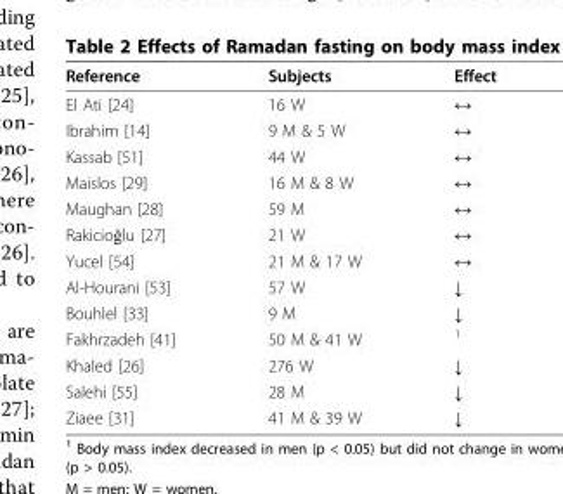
<table><thead><tr><td>Reference</td><td>Subjects</td><td>Effect</td></tr></thead><tbody><tr><td>El Ati [24]</td><td>16 W</td><td>↔</td></tr><tr><td>Ibrahim [14]</td><td>9 M &amp; 5 W</td><td>↔</td></tr><tr><td>Kassab [51]</td><td>44 W</td><td>↔</td></tr><tr><td>Maislos [29]</td><td>16 M &amp; 8 W</td><td>↔</td></tr><tr><td>Maughan [28]</td><td>59 M</td><td>↔</td></tr><tr><td>Rakicioğlu [27]</td><td>21 W</td><td>↔</td></tr><tr><td>Yucel [54]</td><td>21 M &amp; 17 W</td><td>↔</td></tr><tr><td>Al-Hourani [53]</td><td>57 W</td><td>↓</td></tr><tr><td>Bouhlel [33]</td><td>9 M</td><td>↓</td></tr><tr><td>Fakhrzadeh [41]</td><td>50 M &amp; 41 W</td><td><sup>1</sup></td></tr><tr><td>Khaled [26]</td><td>276 W</td><td>↓</td></tr><tr><td>Salehi [55]</td><td>28 M</td><td>↓</td></tr><tr><td>Ziaee [31]</td><td>41 M &amp; 39 W</td><td>↓</td></tr></tbody></table>